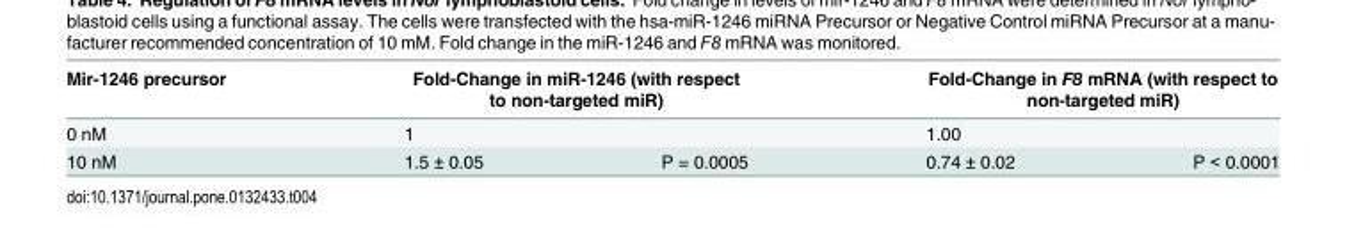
<table><thead><tr><td rowspan="2">Mir-1246 precursor 0 nM</td><td colspan="2">Fold-Change in miR-1246 (with respect to non-targeted miR)</td><td colspan="2">Fold-Change in F8 mRNA (with respect to non-targeted miR)</td></tr><tr><td>1</td><td></td><td>1.00</td><td></td></tr></thead><tbody><tr><td>10 nM</td><td>1.5 ± 0.05</td><td>P = 0.0005</td><td>0.74 ± 0.02</td><td>P &lt; 0.0001</td></tr></tbody></table>